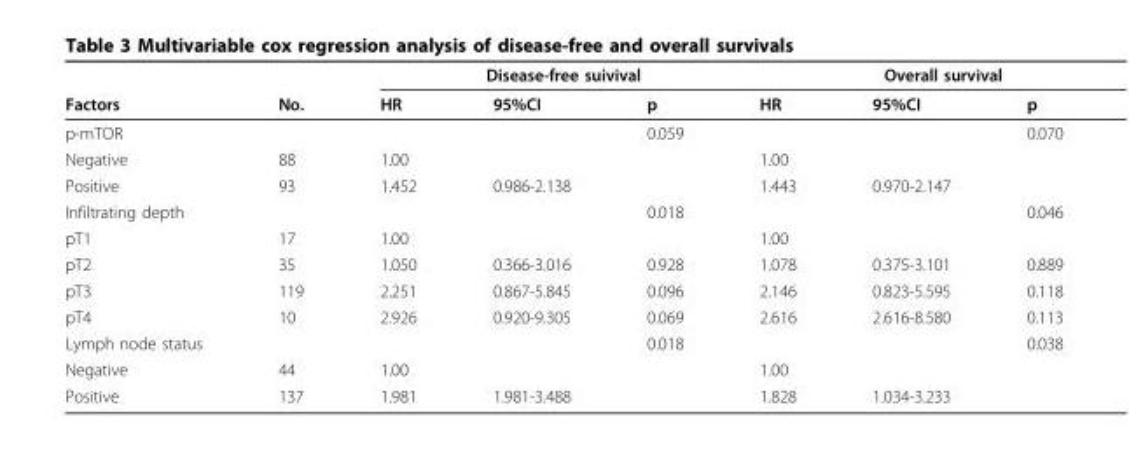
<table><thead><tr><td rowspan="2">Factors</td><td rowspan="2">No.</td><td colspan="3">Disease-free suivival</td><td colspan="3">Overall survival</td></tr><tr><td>HR</td><td>95%CI</td><td>p</td><td>HR</td><td>95%CI</td><td>p</td></tr></thead><tbody><tr><td>p-mTOR</td><td></td><td></td><td></td><td>0.059</td><td></td><td></td><td>0.070</td></tr><tr><td>Negative</td><td>88</td><td>1.00</td><td></td><td></td><td>1.00</td><td></td><td></td></tr><tr><td>Positive</td><td>93</td><td>1.452</td><td>0.986-2.138</td><td></td><td>1.443</td><td>0.970-2.147</td><td></td></tr><tr><td>Infiltrating depth</td><td></td><td></td><td></td><td>0.018</td><td></td><td></td><td>0.046</td></tr><tr><td>pT1</td><td>17</td><td>1.00</td><td></td><td></td><td>1.00</td><td></td><td></td></tr><tr><td>pT2</td><td>35</td><td>1.050</td><td>0.366-3.016</td><td>0.928</td><td>1.078</td><td>0.375-3.101</td><td>0.889</td></tr><tr><td>pT3</td><td>119</td><td>2.251</td><td>0.867-5.845</td><td>0.096</td><td>2.146</td><td>0.823-5.595</td><td>0.118</td></tr><tr><td>pT4</td><td>10</td><td>2.926</td><td>0.920-9.305</td><td>0.069</td><td>2.616</td><td>2.616-8.580</td><td>0.113</td></tr><tr><td>Lymph node status</td><td></td><td></td><td></td><td>0.018</td><td></td><td></td><td>0.038</td></tr><tr><td>Negative</td><td>44</td><td>1.00</td><td></td><td></td><td>1.00</td><td></td><td></td></tr><tr><td>Positive</td><td>137</td><td>1.981</td><td>1.981-3.488</td><td></td><td>1.828</td><td>1.034-3.233</td><td></td></tr></tbody></table>